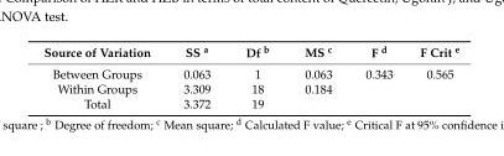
<table><thead><tr><td>Source of Variation</td><td>SS <sup>a</sup></td><td>Df <sup>b</sup></td><td>MS <sup>c</sup></td><td>F <sup>d</sup></td><td>F Crit <sup>e</sup></td></tr></thead><tbody><tr><td>Between Groups</td><td>0.063</td><td>1</td><td>0.063</td><td>0.343</td><td>0.565</td></tr><tr><td>Within Groups</td><td>3.309</td><td>18</td><td>0.184</td><td></td><td></td></tr><tr><td>Total</td><td>3.372</td><td>19</td><td></td><td></td><td></td></tr></tbody></table>